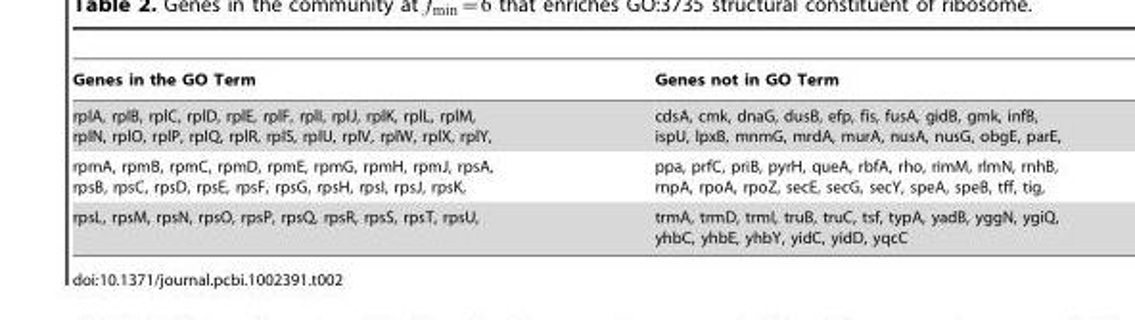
<table><thead><tr><td>Genes in the GO Term</td><td>Genes not in GO Term</td></tr></thead><tbody><tr><td>rplA, rplB, rplC, rplD, rplE, rplF, rplI, rplJ, rplK, rplL, rplM, rplN, rplO, rplP, rplQ, rplR, rplS, rplU, rplV, rplW, rplX, rplY,</td><td>cdsA, cmk, dnaG, dusB, efp, fis, fusA, gidB, gmk, infB, ispU, lpxB, mnmG, mrdA, murA, nusA, nusG, obgE, parE,</td></tr><tr><td>rpmA, rpmB, rpmC, rpmD, rpmE, rpmG, rpmH, rpmJ, rpsA, rpsB, rpsC, rpsD, rpsE, rpsF, rpsG, rpsH, rpsI, rpsJ, rpsK,</td><td>ppa, prfC, priB, pyrH, queA, rbfA, rho, rimM, rlmN, rnhB, rnpA, rpoA, rpoZ, secE, secG, secY, speA, speB, tff, tig,</td></tr><tr><td>rpsL, rpsM, rpsN, rpsO, rpsP, rpsQ, rpsR, rpsS, rpsT, rpsU,</td><td>trmA, trmD, trmI, truB, truC, tsf, typA, yadB, yggN, ygiQ, yhbC, yhbE, yhbY, yidC, yidD, yqcC</td></tr></tbody></table>